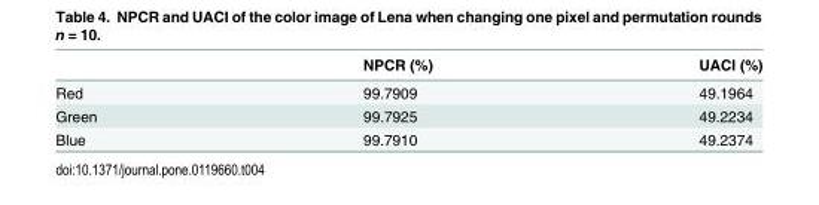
<table><thead><tr><td></td><td>NPCR (%)</td><td>UACI (%)</td></tr></thead><tbody><tr><td>Red</td><td>99.7909</td><td>49.1964</td></tr><tr><td>Green</td><td>99.7925</td><td>49.2234</td></tr><tr><td>Blue</td><td>99.7910</td><td>49.2374</td></tr></tbody></table>